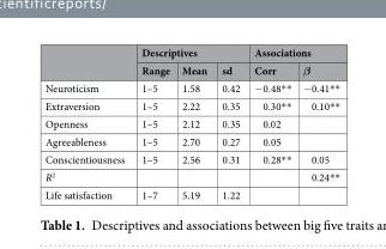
<table><thead><tr><td rowspan="2"></td><td colspan="3">Descriptives</td><td colspan="2">Associations</td></tr><tr><td>Range</td><td>Mean</td><td>sd</td><td>Corr</td><td>β</td></tr></thead><tbody><tr><td>Neuroticism</td><td>1–5</td><td>1.58</td><td>0.42</td><td>−0.48**</td><td>−0.41**</td></tr><tr><td>Extraversion</td><td>1–5</td><td>2.22</td><td>0.35</td><td>0.30**</td><td>0.10**</td></tr><tr><td>Openness</td><td>1–5</td><td>2.12</td><td>0.35</td><td>0.02</td><td></td></tr><tr><td>Agreeableness</td><td>1–5</td><td>2.70</td><td>0.27</td><td>0.05</td><td></td></tr><tr><td>Conscientiousness</td><td>1–5</td><td>2.56</td><td>0.31</td><td>0.28**</td><td>0.05</td></tr><tr><td>R<sup>2</sup></td><td></td><td></td><td></td><td></td><td>0.24**</td></tr><tr><td>Life satisfaction</td><td>1–7</td><td>5.19</td><td>1.22</td><td></td><td></td></tr></tbody></table>